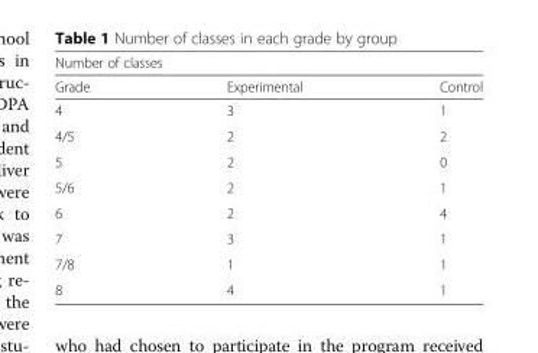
<table><thead><tr><td colspan="3">Number of classes</td></tr><tr><td>Grade</td><td>Experimental</td><td>Control</td></tr></thead><tbody><tr><td>4</td><td>3</td><td>1</td></tr><tr><td>4/5</td><td>2</td><td>2</td></tr><tr><td>5</td><td>2</td><td>0</td></tr><tr><td>5/6</td><td>2</td><td>1</td></tr><tr><td>6</td><td>2</td><td>4</td></tr><tr><td>7</td><td>3</td><td>1</td></tr><tr><td>7/8</td><td>1</td><td>1</td></tr><tr><td>8</td><td>4</td><td>1</td></tr></tbody></table>